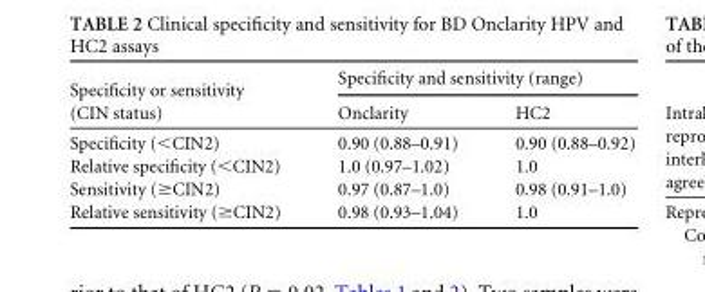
<table><thead><tr><td rowspan="2">Specificity or sensitivity (CIN status)</td><td colspan="2">Specificity and sensitivity (range)</td></tr><tr><td>Onclarity</td><td>HC2</td></tr></thead><tbody><tr><td>Specificity (&lt;CIN2)</td><td>0.90 (0.88–0.91)</td><td>0.90 (0.88–0.92)</td></tr><tr><td>Relative specificity (&lt;CIN2)</td><td>1.0 (0.97–1.02)</td><td>1.0</td></tr><tr><td>Sensitivity (≥CIN2)</td><td>0.97 (0.87–1.0)</td><td>0.98 (0.91–1.0)</td></tr><tr><td>Relative sensitivity (≥CIN2)</td><td>0.98 (0.93–1.04)</td><td>1.0</td></tr></tbody></table>